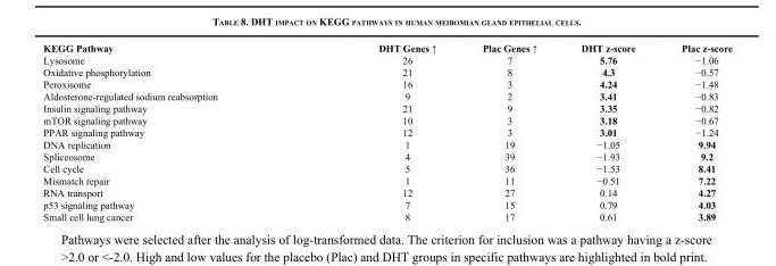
<table><thead><tr><td>KEGG Pathway</td><td>DHT Genes ↑</td><td>Plac Genes ↑</td><td>DHT z-score</td><td>Plac z-score</td></tr></thead><tbody><tr><td>Lysosome</td><td>26</td><td>7</td><td>5.76</td><td>−1.06</td></tr><tr><td>Oxidative phosphorylation</td><td>21</td><td>8</td><td>4.3</td><td>−0.57</td></tr><tr><td>Peroxisome</td><td>16</td><td>3</td><td>4.24</td><td>−1.48</td></tr><tr><td>Aldosterone-regulated sodium reabsorption</td><td>9</td><td>2</td><td>3.41</td><td>−0.83</td></tr><tr><td>Insulin signaling pathway</td><td>21</td><td>9</td><td>3.35</td><td>−0.82</td></tr><tr><td>mTOR signaling pathway</td><td>10</td><td>3</td><td>3.18</td><td>−0.67</td></tr><tr><td>PPAR signaling pathway</td><td>12</td><td>3</td><td>3.01</td><td>−1.24</td></tr><tr><td>DNA replication</td><td>1</td><td>19</td><td>−1.05</td><td>9.94</td></tr><tr><td>Spliceosome</td><td>4</td><td>39</td><td>−1.93</td><td>9.2</td></tr><tr><td>Cell cycle</td><td>5</td><td>36</td><td>−1.53</td><td>8.41</td></tr><tr><td>Mismatch repair</td><td>1</td><td>11</td><td>−0.51</td><td>7.22</td></tr><tr><td>RNA transport</td><td>12</td><td>27</td><td>0.14</td><td>4.27</td></tr><tr><td>p53 signaling pathway</td><td>7</td><td>15</td><td>0.79</td><td>4.03</td></tr><tr><td>Small cell lung cancer</td><td>8</td><td>17</td><td>0.61</td><td>3.89</td></tr></tbody></table>